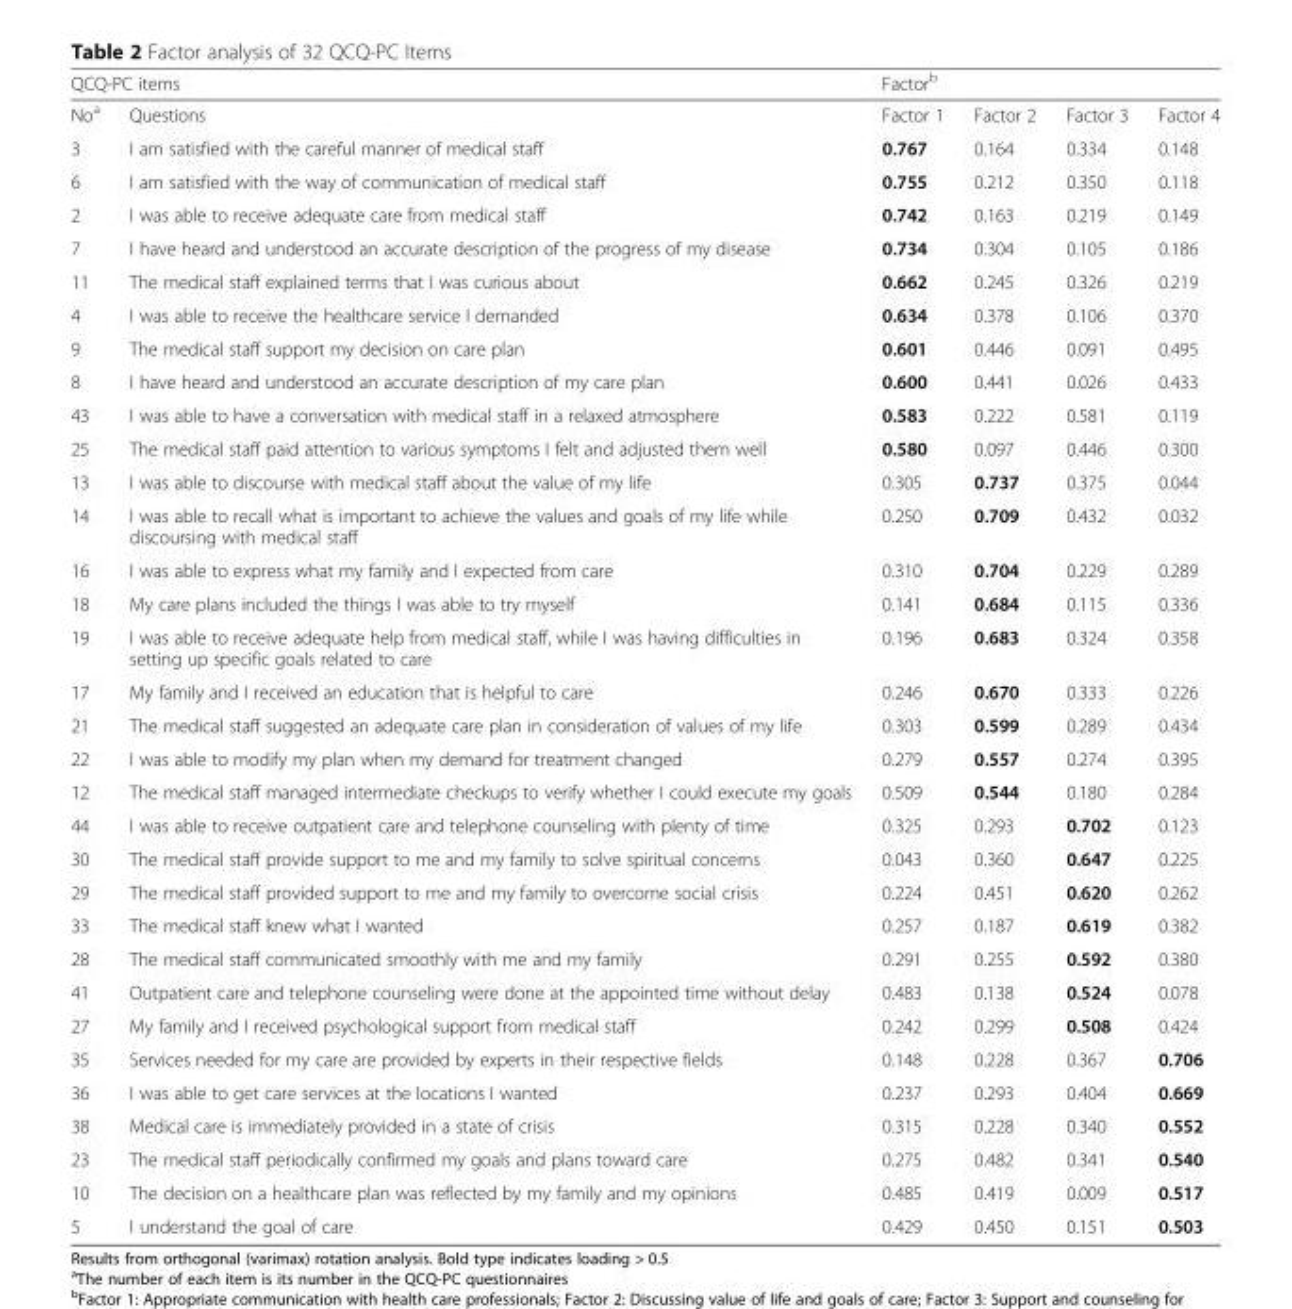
<table><thead><tr><td colspan="2">QCQ-PC items</td><td colspan="4">Factor<sup>b</sup></td></tr><tr><td>No<sup>a</sup></td><td>Questions</td><td>Factor 1</td><td>Factor 2</td><td>Factor 3</td><td>Factor 4</td></tr></thead><tbody><tr><td>3</td><td>I am satisfied with the careful manner of medical staff</td><td>0.767</td><td>0.164</td><td>0.334</td><td>0.148</td></tr><tr><td>6</td><td>I am satisfied with the way of communication of medical staff</td><td>0.755</td><td>0.212</td><td>0.350</td><td>0.118</td></tr><tr><td>2</td><td>I was able to receive adequate care from medical staff</td><td>0.742</td><td>0.163</td><td>0.219</td><td>0.149</td></tr><tr><td>7</td><td>I have heard and understood an accurate description of the progress of my disease</td><td>0.734</td><td>0.304</td><td>0.105</td><td>0.186</td></tr><tr><td>11</td><td>The medical staff explained terms that I was curious about</td><td>0.662</td><td>0.245</td><td>0.326</td><td>0.219</td></tr><tr><td>4</td><td>I was able to receive the healthcare service I demanded</td><td>0.634</td><td>0.378</td><td>0.106</td><td>0.370</td></tr><tr><td>9</td><td>The medical staff support my decision on care plan</td><td>0.601</td><td>0.446</td><td>0.091</td><td>0.495</td></tr><tr><td>8</td><td>I have heard and understood an accurate description of my care plan</td><td>0.600</td><td>0.441</td><td>0.026</td><td>0.433</td></tr><tr><td>43</td><td>I was able to have a conversation with medical staff in a relaxed atmosphere</td><td>0.583</td><td>0.222</td><td>0.581</td><td>0.119</td></tr><tr><td>25</td><td>The medical staff paid attention to various symptoms I felt and adjusted them well</td><td>0.580</td><td>0.097</td><td>0.446</td><td>0.300</td></tr><tr><td>13</td><td>I was able to discourse with medical staff about the value of my life</td><td>0.305</td><td>0.737</td><td>0.375</td><td>0.044</td></tr><tr><td>14</td><td>I was able to recall what is important to achieve the values and goals of my life while discoursing with medical staff</td><td>0.250</td><td>0.709</td><td>0.432</td><td>0.032</td></tr><tr><td>16</td><td>I was able to express what my family and I expected from care</td><td>0.310</td><td>0.704</td><td>0.229</td><td>0.289</td></tr><tr><td>18</td><td>My care plans included the things I was able to try myself</td><td>0.141</td><td>0.684</td><td>0.115</td><td>0.336</td></tr><tr><td>19</td><td>I was able to receive adequate help from medical staff, while I was having difficulties in setting up specific goals related to care</td><td>0.196</td><td>0.683</td><td>0.324</td><td>0.358</td></tr><tr><td>17</td><td>My family and I received an education that is helpful to care</td><td>0.246</td><td>0.670</td><td>0.333</td><td>0.226</td></tr><tr><td>21</td><td>The medical staff suggested an adequate care plan in consideration of values of my life</td><td>0.303</td><td>0.599</td><td>0.289</td><td>0.434</td></tr><tr><td>22</td><td>I was able to modify my plan when my demand for treatment changed</td><td>0.279</td><td>0.557</td><td>0.274</td><td>0.395</td></tr><tr><td>12</td><td>The medical staff managed intermediate checkups to verify whether I could execute my goals</td><td>0.509</td><td>0.544</td><td>0.180</td><td>0.284</td></tr><tr><td>44</td><td>I was able to receive outpatient care and telephone counseling with plenty of time</td><td>0.325</td><td>0.293</td><td>0.702</td><td>0.123</td></tr><tr><td>30</td><td>The medical staff provide support to me and my family to solve spiritual concerns</td><td>0.043</td><td>0.360</td><td>0.647</td><td>0.225</td></tr><tr><td>29</td><td>The medical staff provided support to me and my family to overcome social crisis</td><td>0.224</td><td>0.451</td><td>0.620</td><td>0.262</td></tr><tr><td>33</td><td>The medical staff knew what I wanted</td><td>0.257</td><td>0.187</td><td>0.619</td><td>0.382</td></tr><tr><td>28</td><td>The medical staff communicated smoothly with me and my family</td><td>0.291</td><td>0.255</td><td>0.592</td><td>0.380</td></tr><tr><td>41</td><td>Outpatient care and telephone counseling were done at the appointed time without delay</td><td>0.483</td><td>0.138</td><td>0.524</td><td>0.078</td></tr><tr><td>27</td><td>My family and I received psychological support from medical staff</td><td>0.242</td><td>0.299</td><td>0.508</td><td>0.424</td></tr><tr><td>35</td><td>Services needed for my care are provided by experts in their respective fields</td><td>0.148</td><td>0.228</td><td>0.367</td><td>0.706</td></tr><tr><td>36</td><td>I was able to get care services at the locations I wanted</td><td>0.237</td><td>0.293</td><td>0.404</td><td>0.669</td></tr><tr><td>38</td><td>Medical care is immediately provided in a state of crisis</td><td>0.315</td><td>0.228</td><td>0.340</td><td>0.552</td></tr><tr><td>23</td><td>The medical staff periodically confirmed my goals and plans toward care</td><td>0.275</td><td>0.482</td><td>0.341</td><td>0.540</td></tr><tr><td>10</td><td>The decision on a healthcare plan was reflected by my family and my opinions</td><td>0.485</td><td>0.419</td><td>0.009</td><td>0.517</td></tr><tr><td>5</td><td>I understand the goal of care</td><td>0.429</td><td>0.450</td><td>0.151</td><td>0.503</td></tr></tbody></table>